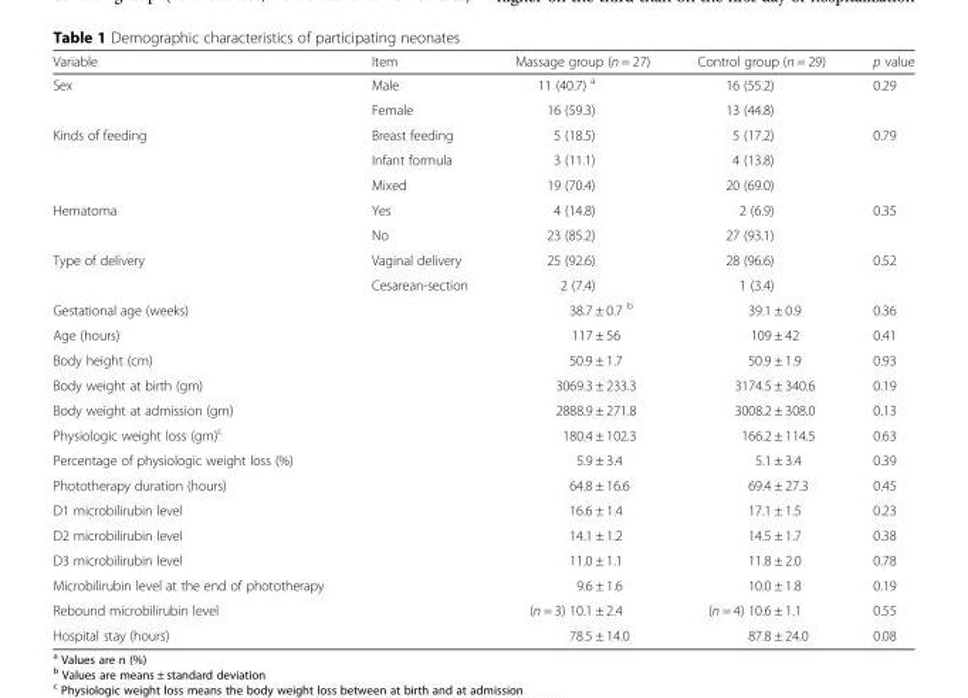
<table><thead><tr><td>Variable</td><td>Item</td><td>Massage group (n = 27)</td><td>Control group (n = 29)</td><td>p value</td></tr></thead><tbody><tr><td rowspan="2">Sex</td><td>Male</td><td>11 (40.7) <sup>a</sup></td><td>16 (55.2)</td><td>0.29</td></tr><tr><td>Female</td><td>16 (59.3)</td><td>13 (44.8)</td><td></td></tr><tr><td rowspan="3">Kinds of feeding</td><td>Breast feeding</td><td>5 (18.5)</td><td>5 (17.2)</td><td>0.79</td></tr><tr><td>Infant formula</td><td>3 (11.1)</td><td>4 (13.8)</td><td></td></tr><tr><td>Mixed</td><td>19 (70.4)</td><td>20 (69.0)</td><td></td></tr><tr><td rowspan="2">Hematoma</td><td>Yes</td><td>4 (14.8)</td><td>2 (6.9)</td><td>0.35</td></tr><tr><td>No</td><td>23 (85.2)</td><td>27 (93.1)</td><td></td></tr><tr><td rowspan="2">Type of delivery</td><td>Vaginal delivery</td><td>25 (92.6)</td><td>28 (96.6)</td><td>0.52</td></tr><tr><td>Cesarean-section</td><td>2 (7.4)</td><td>1 (3.4)</td><td></td></tr><tr><td>Gestational age (weeks)</td><td></td><td>38.7 ± 0.7 <sup>b</sup></td><td>39.1 ± 0.9</td><td>0.36</td></tr><tr><td>Age (hours)</td><td></td><td>117 ± 56</td><td>109 ± 42</td><td>0.41</td></tr><tr><td>Body height (cm)</td><td></td><td>50.9 ± 1.7</td><td>50.9 ± 1.9</td><td>0.93</td></tr><tr><td>Body weight at birth (gm)</td><td></td><td>3069.3 ± 233.3</td><td>3174.5 ± 340.6</td><td>0.19</td></tr><tr><td>Body weight at admission (gm)</td><td></td><td>2888.9 ± 271.8</td><td>3008.2 ± 308.0</td><td>0.13</td></tr><tr><td>Physiologic weight loss (gm)<sup>c</sup></td><td></td><td>180.4 ± 102.3</td><td>166.2 ± 114.5</td><td>0.63</td></tr><tr><td>Percentage of physiologic weight loss (%)</td><td></td><td>5.9 ± 3.4</td><td>5.1 ± 3.4</td><td>0.39</td></tr><tr><td>Phototherapy duration (hours)</td><td></td><td>64.8 ± 16.6</td><td>69.4 ± 27.3</td><td>0.45</td></tr><tr><td>D1 microbilirubin level</td><td></td><td>16.6 ± 1.4</td><td>17.1 ± 1.5</td><td>0.23</td></tr><tr><td>D2 microbilirubin level</td><td></td><td>14.1 ± 1.2</td><td>14.5 ± 1.7</td><td>0.38</td></tr><tr><td>D3 microbilirubin level</td><td></td><td>11.0 ± 1.1</td><td>11.8 ± 2.0</td><td>0.78</td></tr><tr><td>Microbilirubin level at the end of phototherapy</td><td></td><td>9.6 ± 1.6</td><td>10.0 ± 1.8</td><td>0.19</td></tr><tr><td>Rebound microbilirubin level</td><td></td><td>(n = 3) 10.1 ± 2.4</td><td>(n = 4) 10.6 ± 1.1</td><td>0.55</td></tr><tr><td>Hospital stay (hours)</td><td></td><td>78.5 ± 14.0</td><td>87.8 ± 24.0</td><td>0.08</td></tr></tbody></table>